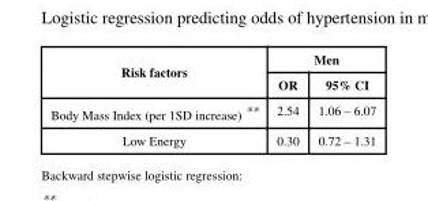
<table><thead><tr><td rowspan="2">Risk factors</td><td colspan="2">Men</td></tr><tr><td>OR</td><td>95% CI</td></tr></thead><tbody><tr><td>Body Mass Index (per 1SD increase) **</td><td>2.54</td><td>1.06 – 6.07</td></tr><tr><td>Low Energy</td><td>0.30</td><td>0.72 – 1.31</td></tr></tbody></table>